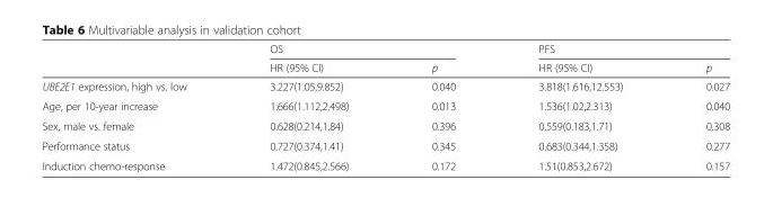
<table><thead><tr><td rowspan="2"></td><td colspan="2">OS</td><td colspan="2">PFS</td></tr><tr><td>HR (95% CI)</td><td>p</td><td>HR (95% CI)</td><td>p</td></tr></thead><tbody><tr><td>UBE2E1 expression, high vs. low</td><td>3.227(1.05,9.852)</td><td>0.040</td><td>3.818(1.616,12.553)</td><td>0.027</td></tr><tr><td>Age, per 10-year increase</td><td>1.666(1.112,2.498)</td><td>0.013</td><td>1.536(1.02,2.313)</td><td>0.040</td></tr><tr><td>Sex, male vs. female</td><td>0.628(0.214,1.84)</td><td>0.396</td><td>0.559(0.183,1.71)</td><td>0.308</td></tr><tr><td>Performance status</td><td>0.727(0.374,1.41)</td><td>0.345</td><td>0.683(0.344,1.358)</td><td>0.277</td></tr><tr><td>Induction chemo-response</td><td>1.472(0.845,2.566)</td><td>0.172</td><td>1.51(0.853,2.672)</td><td>0.157</td></tr></tbody></table>